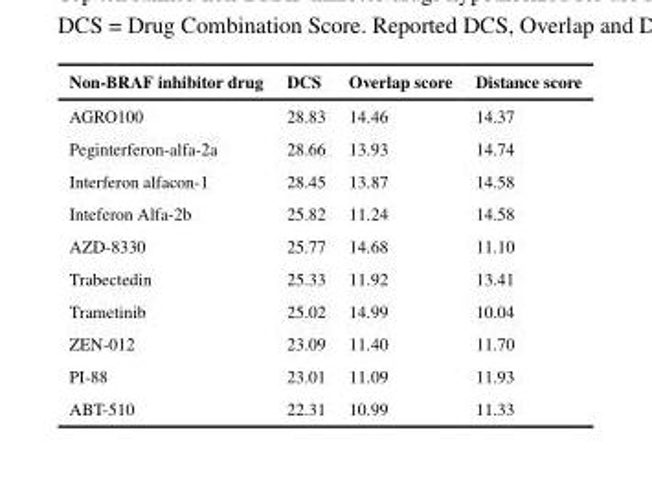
<table><thead><tr><td>Non-BRAF inhibitor drug</td><td>DCS</td><td>Overlap score</td><td>Distance score</td></tr></thead><tbody><tr><td>AGRO100</td><td>28.83</td><td>14.46</td><td>14.37</td></tr><tr><td>Peginterferon-alfa-2a</td><td>28.66</td><td>13.93</td><td>14.74</td></tr><tr><td>Interferon alfacon-1</td><td>28.45</td><td>13.87</td><td>14.58</td></tr><tr><td>Inteferon Alfa-2b</td><td>25.82</td><td>11.24</td><td>14.58</td></tr><tr><td>AZD-8330</td><td>25.77</td><td>14.68</td><td>11.10</td></tr><tr><td>Trabectedin</td><td>25.33</td><td>11.92</td><td>13.41</td></tr><tr><td>Trametinib</td><td>25.02</td><td>14.99</td><td>10.04</td></tr><tr><td>ZEN-012</td><td>23.09</td><td>11.40</td><td>11.70</td></tr><tr><td>PI-88</td><td>23.01</td><td>11.09</td><td>11.93</td></tr><tr><td>ABT-510</td><td>22.31</td><td>10.99</td><td>11.33</td></tr></tbody></table>